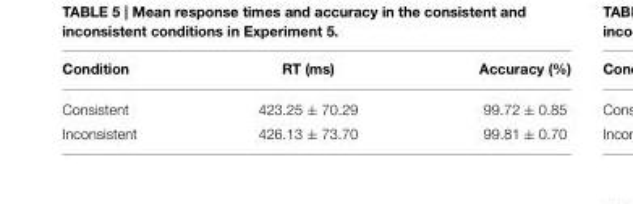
<table><thead><tr><td>Condition</td><td>RT (ms)</td><td>Accuracy (%)</td></tr></thead><tbody><tr><td>Consistent</td><td>423.25 ± 70.29</td><td>99.72 ± 0.85</td></tr><tr><td>Inconsistent</td><td>426.13 ± 73.70</td><td>99.81 ± 0.70</td></tr></tbody></table>